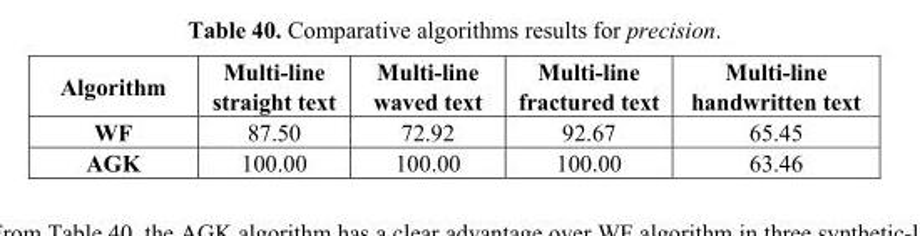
<table><thead><tr><td>Algorithm</td><td>Multi-line straight text</td><td>Multi-line waved text</td><td>Multi-line fractured text</td><td>Multi-line handwritten text</td></tr></thead><tbody><tr><td>WF</td><td>87.50</td><td>72.92</td><td>92.67</td><td>65.45</td></tr><tr><td>AGK</td><td>100.00</td><td>100.00</td><td>100.00</td><td>63.46</td></tr></tbody></table>